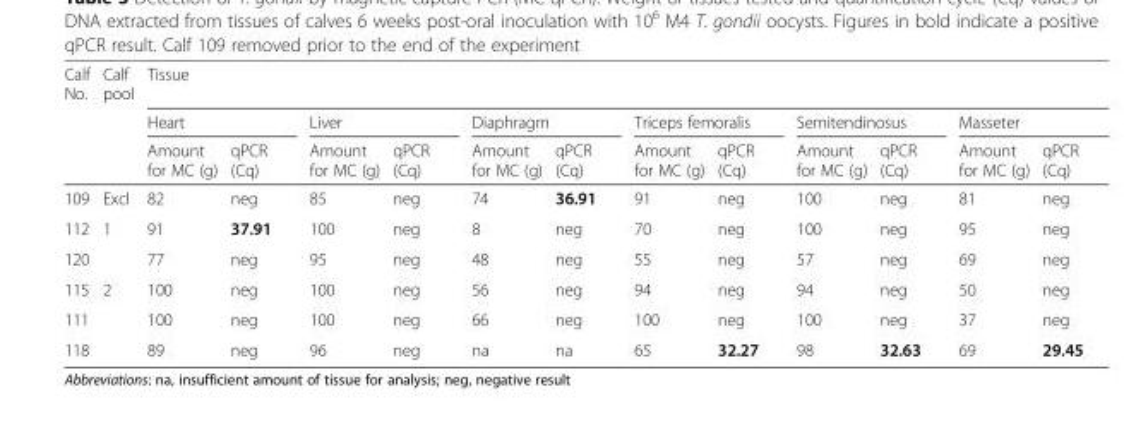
<table><thead><tr><td rowspan="3">Calf No.</td><td rowspan="3">Calf pool</td><td colspan="12">Tissue</td></tr><tr><td colspan="2">Heart</td><td colspan="2">Liver</td><td colspan="2">Diaphragm</td><td colspan="2">Triceps femoralis</td><td colspan="2">Semitendinosus</td><td colspan="2">Masseter</td></tr><tr><td>Amount for MC (g)</td><td>qPCR (Cq)</td><td>Amount for MC (g)</td><td>qPCR (Cq)</td><td>Amount for MC (g)</td><td>qPCR (Cq)</td><td>Amount for MC (g)</td><td>qPCR (Cq)</td><td>Amount for MC (g)</td><td>qPCR (Cq)</td><td>Amount for MC (g)</td><td>qPCR (Cq)</td></tr></thead><tbody><tr><td>109</td><td>Excl</td><td>82</td><td>neg</td><td>85</td><td>neg</td><td>74</td><td>36.91</td><td>91</td><td>neg</td><td>100</td><td>neg</td><td>81</td><td>neg</td></tr><tr><td>112</td><td rowspan="2">1</td><td>91</td><td>37.91</td><td>100</td><td>neg</td><td>8</td><td>neg</td><td>70</td><td>neg</td><td>100</td><td>neg</td><td>95</td><td>neg</td></tr><tr><td>120</td><td>77</td><td>neg</td><td>95</td><td>neg</td><td>48</td><td>neg</td><td>55</td><td>neg</td><td>57</td><td>neg</td><td>69</td><td>neg</td></tr><tr><td>115</td><td rowspan="3">2</td><td>100</td><td>neg</td><td>100</td><td>neg</td><td>56</td><td>neg</td><td>94</td><td>neg</td><td>94</td><td>neg</td><td>50</td><td>neg</td></tr><tr><td>111</td><td>100</td><td>neg</td><td>100</td><td>neg</td><td>66</td><td>neg</td><td>100</td><td>neg</td><td>100</td><td>neg</td><td>37</td><td>neg</td></tr><tr><td>118</td><td>89</td><td>neg</td><td>96</td><td>neg</td><td>na</td><td>na</td><td>65</td><td>32.27</td><td>98</td><td>32.63</td><td>69</td><td>29.45</td></tr></tbody></table>